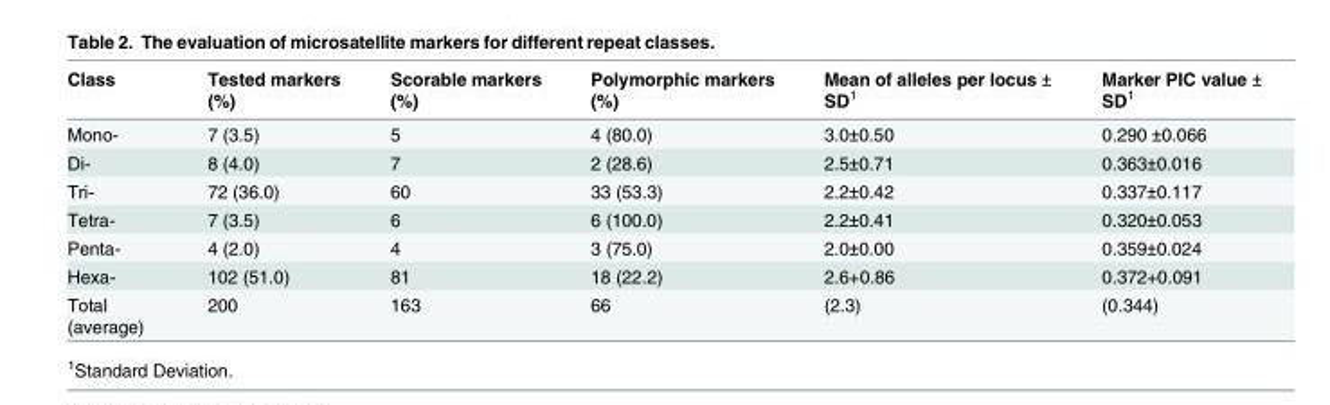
<table><thead><tr><td>Class</td><td>Tested markers (%)</td><td>Scorable markers (%)</td><td>Polymorphic markers (%)</td><td>Mean of alleles per locus ± SD<sup>1</sup></td><td>Marker PIC value ± SD<sup>1</sup></td></tr></thead><tbody><tr><td>Mono-</td><td>7 (3.5)</td><td>5</td><td>4 (80.0)</td><td>3.0±0.50</td><td>0.290 ±0.066</td></tr><tr><td>Di-</td><td>8 (4.0)</td><td>7</td><td>2 (28.6)</td><td>2.5±0.71</td><td>0.363±0.016</td></tr><tr><td>Tri-</td><td>72 (36.0)</td><td>60</td><td>33 (53.3)</td><td>2.2±0.42</td><td>0.337±0.117</td></tr><tr><td>Tetra-</td><td>7 (3.5)</td><td>6</td><td>6 (100.0)</td><td>2.2±0.41</td><td>0.320±0.053</td></tr><tr><td>Penta-</td><td>4 (2.0)</td><td>4</td><td>3 (75.0)</td><td>2.0±0.00</td><td>0.359±0.024</td></tr><tr><td>Hexa-</td><td>102 (51.0)</td><td>81</td><td>18 (22.2)</td><td>2.6+0.86</td><td>0.372+0.091</td></tr><tr><td>Total (average)</td><td>200</td><td>163</td><td>66</td><td>(2.3)</td><td>(0.344)</td></tr></tbody></table>